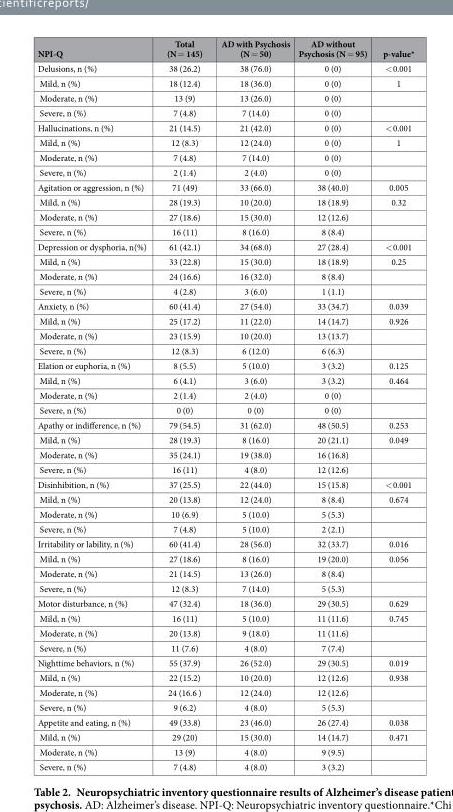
<table><thead><tr><td>NPI-Q</td><td>Total (N = 145)</td><td>AD with Psychosis (N = 50)</td><td>AD without Psychosis (N = 95)</td><td>p-value*</td></tr></thead><tbody><tr><td>Delusions, n (%)</td><td>38 (26.2)</td><td>38 (76.0)</td><td>0 (0)</td><td>&lt; 0.001</td></tr><tr><td>Mild, n (%)</td><td>18 (12.4)</td><td>18 (36.0)</td><td>0 (0)</td><td>1</td></tr><tr><td>Moderate, n (%)</td><td>13 (9)</td><td>13 (26.0)</td><td>0 (0)</td><td></td></tr><tr><td>Severe, n (%)</td><td>7 (4.8)</td><td>7 (14.0)</td><td>0 (0)</td><td></td></tr><tr><td>Hallucinations, n (%)</td><td>21 (14.5)</td><td>21 (42.0)</td><td>0 (0)</td><td>&lt; 0.001</td></tr><tr><td>Mild, n (%)</td><td>12 (8.3)</td><td>12 (24.0)</td><td>0 (0)</td><td>1</td></tr><tr><td>Moderate, n (%)</td><td>7 (4.8)</td><td>7 (14.0)</td><td>0 (0)</td><td></td></tr><tr><td>Severe, n (%)</td><td>2 (1.4)</td><td>2 (4.0)</td><td>0 (0)</td><td></td></tr><tr><td>Agitation or aggression, n (%)</td><td>71 (49)</td><td>33 (66.0)</td><td>38 (40.0)</td><td>0.005</td></tr><tr><td>Mild, n (%)</td><td>28 (19.3)</td><td>10 (20.0)</td><td>18 (18.9)</td><td>0.32</td></tr><tr><td>Moderate, n (%)</td><td>27 (18.6)</td><td>15 (30.0)</td><td>12 (12.6)</td><td></td></tr><tr><td>Severe, n (%)</td><td>16 (11)</td><td>8 (16.0)</td><td>8 (8.4)</td><td></td></tr><tr><td>Depression or dysphoria, n(%)</td><td>61 (42.1)</td><td>34 (68.0)</td><td>27 (28.4)</td><td>&lt; 0.001</td></tr><tr><td>Mild, n (%)</td><td>33 (22.8)</td><td>15 (30.0)</td><td>18 (18.9)</td><td>0.25</td></tr><tr><td>Moderate, n (%)</td><td>24 (16.6)</td><td>16 (32.0)</td><td>8 (8.4)</td><td></td></tr><tr><td>Severe, n (%)</td><td>4 (2.8)</td><td>3 (6.0)</td><td>1 (1.1)</td><td></td></tr><tr><td>Anxiety, n (%)</td><td>60 (41.4)</td><td>27 (54.0)</td><td>33 (34.7)</td><td>0.039</td></tr><tr><td>Mild, n (%)</td><td>25 (17.2)</td><td>11 (22.0)</td><td>14 (14.7)</td><td>0.926</td></tr><tr><td>Moderate, n (%)</td><td>23 (15.9)</td><td>10 (20.0)</td><td>13 (13.7)</td><td></td></tr><tr><td>Severe, n (%)</td><td>12 (8.3)</td><td>6 (12.0)</td><td>6 (6.3)</td><td></td></tr><tr><td>Elation or euphoria, n (%)</td><td>8 (5.5)</td><td>5 (10.0)</td><td>3 (3.2)</td><td>0.125</td></tr><tr><td>Mild, n (%)</td><td>6 (4.1)</td><td>3 (6.0)</td><td>3 (3.2)</td><td>0.464</td></tr><tr><td>Moderate, n (%)</td><td>2 (1.4)</td><td>2 (4.0)</td><td>0 (0)</td><td></td></tr><tr><td>Severe, n (%)</td><td>0 (0)</td><td>0 (0)</td><td>0 (0)</td><td></td></tr><tr><td>Apathy or indifference, n (%)</td><td>79 (54.5)</td><td>31 (62.0)</td><td>48 (50.5)</td><td>0.253</td></tr><tr><td>Mild, n (%)</td><td>28 (19.3)</td><td>8 (16.0)</td><td>20 (21.1)</td><td>0.049</td></tr><tr><td>Moderate, n (%)</td><td>35 (24.1)</td><td>19 (38.0)</td><td>16 (16.8)</td><td></td></tr><tr><td>Severe, n (%)</td><td>16 (11)</td><td>4 (8.0)</td><td>12 (12.6)</td><td></td></tr><tr><td>Disinhibition, n (%)</td><td>37 (25.5)</td><td>22 (44.0)</td><td>15 (15.8)</td><td>&lt; 0.001</td></tr><tr><td>Mild, n (%)</td><td>20 (13.8)</td><td>12 (24.0)</td><td>8 (8.4)</td><td>0.674</td></tr><tr><td>Moderate, n (%)</td><td>10 (6.9)</td><td>5 (10.0)</td><td>5 (5.3)</td><td></td></tr><tr><td>Severe, n (%)</td><td>7 (4.8)</td><td>5 (10.0)</td><td>2 (2.1)</td><td></td></tr><tr><td>Irritability or lability, n (%)</td><td>60 (41.4)</td><td>28 (56.0)</td><td>32 (33.7)</td><td>0.016</td></tr><tr><td>Mild, n (%)</td><td>27 (18.6)</td><td>8 (16.0)</td><td>19 (20.0)</td><td>0.056</td></tr><tr><td>Moderate, n (%)</td><td>21 (14.5)</td><td>13 (26.0)</td><td>8 (8.4)</td><td></td></tr><tr><td>Severe, n (%)</td><td>12 (8.3)</td><td>7 (14.0)</td><td>5 (5.3)</td><td></td></tr><tr><td>Motor disturbance, n (%)</td><td>47 (32.4)</td><td>18 (36.0)</td><td>29 (30.5)</td><td>0.629</td></tr><tr><td>Mild, n (%)</td><td>16 (11)</td><td>5 (10.0)</td><td>11 (11.6)</td><td>0.745</td></tr><tr><td>Moderate, n (%)</td><td>20 (13.8)</td><td>9 (18.0)</td><td>11 (11.6)</td><td></td></tr><tr><td>Severe, n (%)</td><td>11 (7.6)</td><td>4 (8.0)</td><td>7 (7.4)</td><td></td></tr><tr><td>Nighttime behaviors, n (%)</td><td>55 (37.9)</td><td>26 (52.0)</td><td>29 (30.5)</td><td>0.019</td></tr><tr><td>Mild, n (%)</td><td>22 (15.2)</td><td>10 (20.0)</td><td>12 (12.6)</td><td>0.938</td></tr><tr><td>Moderate, n (%)</td><td>24 (16.6 )</td><td>12 (24.0)</td><td>12 (12.6)</td><td></td></tr><tr><td>Severe, n (%)</td><td>9 (6.2)</td><td>4 (8.0)</td><td>5 (5.3)</td><td></td></tr><tr><td>Appetite and eating, n (%)</td><td>49 (33.8)</td><td>23 (46.0)</td><td>26 (27.4)</td><td>0.038</td></tr><tr><td>Mild, n (%)</td><td>29 (20)</td><td>15 (30.0)</td><td>14 (14.7)</td><td>0.471</td></tr><tr><td>Moderate, n (%)</td><td>13 (9)</td><td>4 (8.0)</td><td>9 (9.5)</td><td></td></tr><tr><td>Severe, n (%)</td><td>7 (4.8)</td><td>4 (8.0)</td><td>3 (3.2)</td><td></td></tr></tbody></table>